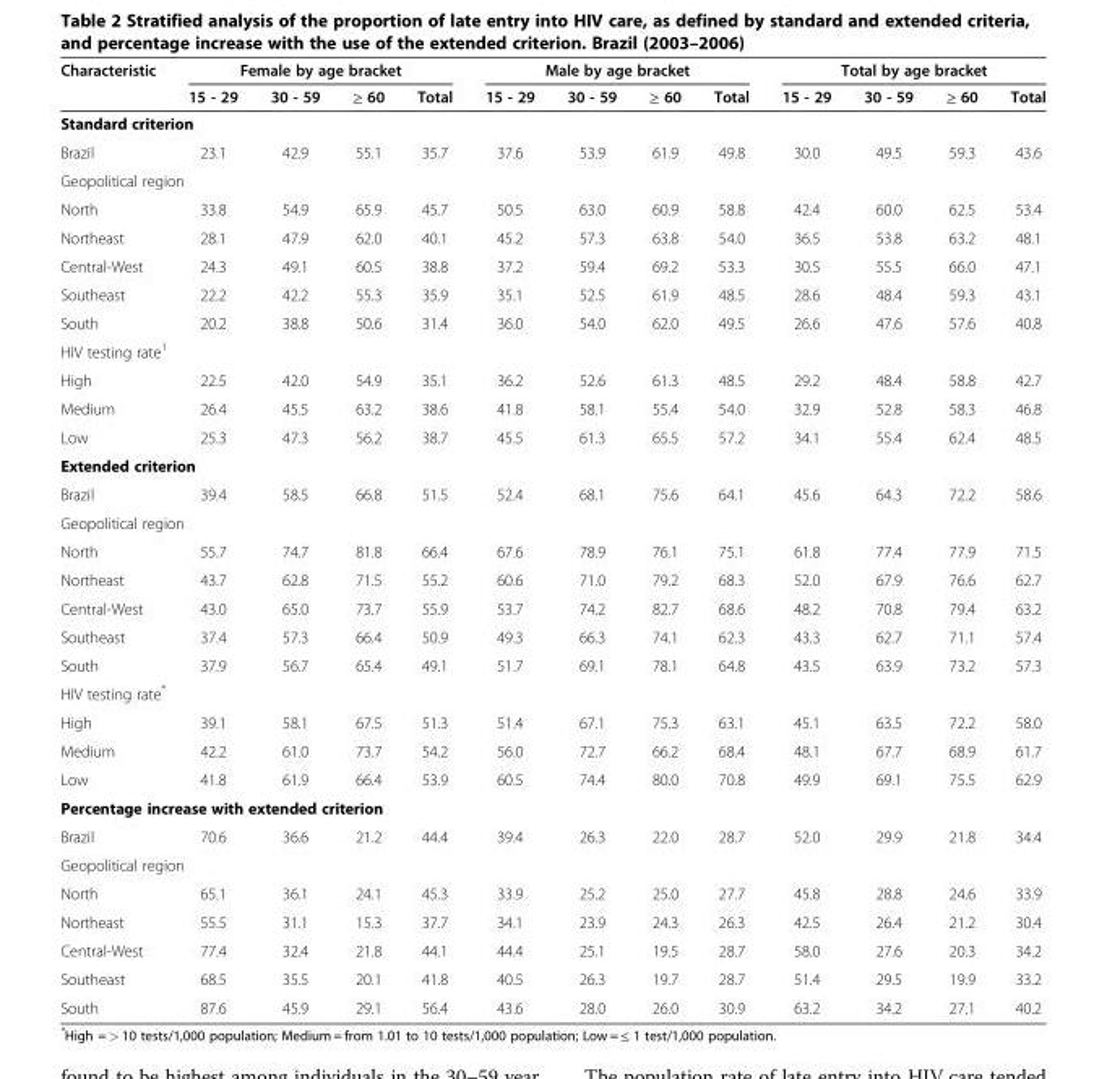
<table><thead><tr><td rowspan="2">Characteristic</td><td colspan="4">Female by age bracket</td><td colspan="4">Male by age bracket</td><td colspan="4">Total by age bracket</td></tr><tr><td>15 - 29</td><td>30 - 59</td><td>≥ 60</td><td>Total</td><td>15 - 29</td><td>30 - 59</td><td>≥ 60</td><td>Total</td><td>15 - 29</td><td>30 - 59</td><td>≥ 60</td><td>Total</td></tr></thead><tbody><tr><td colspan="13">Standard criterion</td></tr><tr><td>Brazil</td><td>23.1</td><td>42.9</td><td>55.1</td><td>35.7</td><td>37.6</td><td>53.9</td><td>61.9</td><td>49.8</td><td>30.0</td><td>49.5</td><td>59.3</td><td>43.6</td></tr><tr><td colspan="13">Geopolitical region</td></tr><tr><td>North</td><td>33.8</td><td>54.9</td><td>65.9</td><td>45.7</td><td>50.5</td><td>63.0</td><td>60.9</td><td>58.8</td><td>42.4</td><td>60.0</td><td>62.5</td><td>53.4</td></tr><tr><td>Northeast</td><td>28.1</td><td>47.9</td><td>62.0</td><td>40.1</td><td>45.2</td><td>57.3</td><td>63.8</td><td>54.0</td><td>36.5</td><td>53.8</td><td>63.2</td><td>48.1</td></tr><tr><td>Central-West</td><td>24.3</td><td>49.1</td><td>60.5</td><td>38.8</td><td>37.2</td><td>59.4</td><td>69.2</td><td>53.3</td><td>30.5</td><td>55.5</td><td>66.0</td><td>47.1</td></tr><tr><td>Southeast</td><td>22.2</td><td>42.2</td><td>55.3</td><td>35.9</td><td>35.1</td><td>52.5</td><td>61.9</td><td>48.5</td><td>28.6</td><td>48.4</td><td>59.3</td><td>43.1</td></tr><tr><td>South</td><td>20.2</td><td>38.8</td><td>50.6</td><td>31.4</td><td>36.0</td><td>54.0</td><td>62.0</td><td>49.5</td><td>26.6</td><td>47.6</td><td>57.6</td><td>40.8</td></tr><tr><td colspan="13">HIV testing rate<sup>1</sup></td></tr><tr><td>High</td><td>22.5</td><td>42.0</td><td>54.9</td><td>35.1</td><td>36.2</td><td>52.6</td><td>61.3</td><td>48.5</td><td>29.2</td><td>48.4</td><td>58.8</td><td>42.7</td></tr><tr><td>Medium</td><td>26.4</td><td>45.5</td><td>63.2</td><td>38.6</td><td>41.8</td><td>58.1</td><td>55.4</td><td>54.0</td><td>32.9</td><td>52.8</td><td>58.3</td><td>46.8</td></tr><tr><td>Low</td><td>25.3</td><td>47.3</td><td>56.2</td><td>38.7</td><td>45.5</td><td>61.3</td><td>65.5</td><td>57.2</td><td>34.1</td><td>55.4</td><td>62.4</td><td>48.5</td></tr><tr><td colspan="13">Extended criterion</td></tr><tr><td>Brazil</td><td>39.4</td><td>58.5</td><td>66.8</td><td>51.5</td><td>52.4</td><td>68.1</td><td>75.6</td><td>64.1</td><td>45.6</td><td>64.3</td><td>72.2</td><td>58.6</td></tr><tr><td colspan="13">Geopolitical region</td></tr><tr><td>North</td><td>55.7</td><td>74.7</td><td>81.8</td><td>66.4</td><td>67.6</td><td>78.9</td><td>76.1</td><td>75.1</td><td>61.8</td><td>77.4</td><td>77.9</td><td>71.5</td></tr><tr><td>Northeast</td><td>43.7</td><td>62.8</td><td>71.5</td><td>55.2</td><td>60.6</td><td>71.0</td><td>79.2</td><td>68.3</td><td>52.0</td><td>67.9</td><td>76.6</td><td>62.7</td></tr><tr><td>Central-West</td><td>43.0</td><td>65.0</td><td>73.7</td><td>55.9</td><td>53.7</td><td>74.2</td><td>82.7</td><td>68.6</td><td>48.2</td><td>70.8</td><td>79.4</td><td>63.2</td></tr><tr><td>Southeast</td><td>37.4</td><td>57.3</td><td>66.4</td><td>50.9</td><td>49.3</td><td>66.3</td><td>74.1</td><td>62.3</td><td>43.3</td><td>62.7</td><td>71.1</td><td>57.4</td></tr><tr><td>South</td><td>37.9</td><td>56.7</td><td>65.4</td><td>49.1</td><td>51.7</td><td>69.1</td><td>78.1</td><td>64.8</td><td>43.5</td><td>63.9</td><td>73.2</td><td>57.3</td></tr><tr><td colspan="13">HIV testing rate*</td></tr><tr><td>High</td><td>39.1</td><td>58.1</td><td>67.5</td><td>51.3</td><td>51.4</td><td>67.1</td><td>75.3</td><td>63.1</td><td>45.1</td><td>63.5</td><td>72.2</td><td>58.0</td></tr><tr><td>Medium</td><td>42.2</td><td>61.0</td><td>73.7</td><td>54.2</td><td>56.0</td><td>72.7</td><td>66.2</td><td>68.4</td><td>48.1</td><td>67.7</td><td>68.9</td><td>61.7</td></tr><tr><td>Low</td><td>41.8</td><td>61.9</td><td>66.4</td><td>53.9</td><td>60.5</td><td>74.4</td><td>80.0</td><td>70.8</td><td>49.9</td><td>69.1</td><td>75.5</td><td>62.9</td></tr><tr><td colspan="13">Percentage increase with extended criterion</td></tr><tr><td>Brazil</td><td>70.6</td><td>36.6</td><td>21.2</td><td>44.4</td><td>39.4</td><td>26.3</td><td>22.0</td><td>28.7</td><td>52.0</td><td>29.9</td><td>21.8</td><td>34.4</td></tr><tr><td colspan="13">Geopolitical region</td></tr><tr><td>North</td><td>65.1</td><td>36.1</td><td>24.1</td><td>45.3</td><td>33.9</td><td>25.2</td><td>25.0</td><td>27.7</td><td>45.8</td><td>28.8</td><td>24.6</td><td>33.9</td></tr><tr><td>Northeast</td><td>55.5</td><td>31.1</td><td>15.3</td><td>37.7</td><td>34.1</td><td>23.9</td><td>24.3</td><td>26.3</td><td>42.5</td><td>26.4</td><td>21.2</td><td>30.4</td></tr><tr><td>Central-West</td><td>77.4</td><td>32.4</td><td>21.8</td><td>44.1</td><td>44.4</td><td>25.1</td><td>19.5</td><td>28.7</td><td>58.0</td><td>27.6</td><td>20.3</td><td>34.2</td></tr><tr><td>Southeast</td><td>68.5</td><td>35.5</td><td>20.1</td><td>41.8</td><td>40.5</td><td>26.3</td><td>19.7</td><td>28.7</td><td>51.4</td><td>29.5</td><td>19.9</td><td>33.2</td></tr><tr><td>South</td><td>87.6</td><td>45.9</td><td>29.1</td><td>56.4</td><td>43.6</td><td>28.0</td><td>26.0</td><td>30.9</td><td>63.2</td><td>34.2</td><td>27.1</td><td>40.2</td></tr></tbody></table>